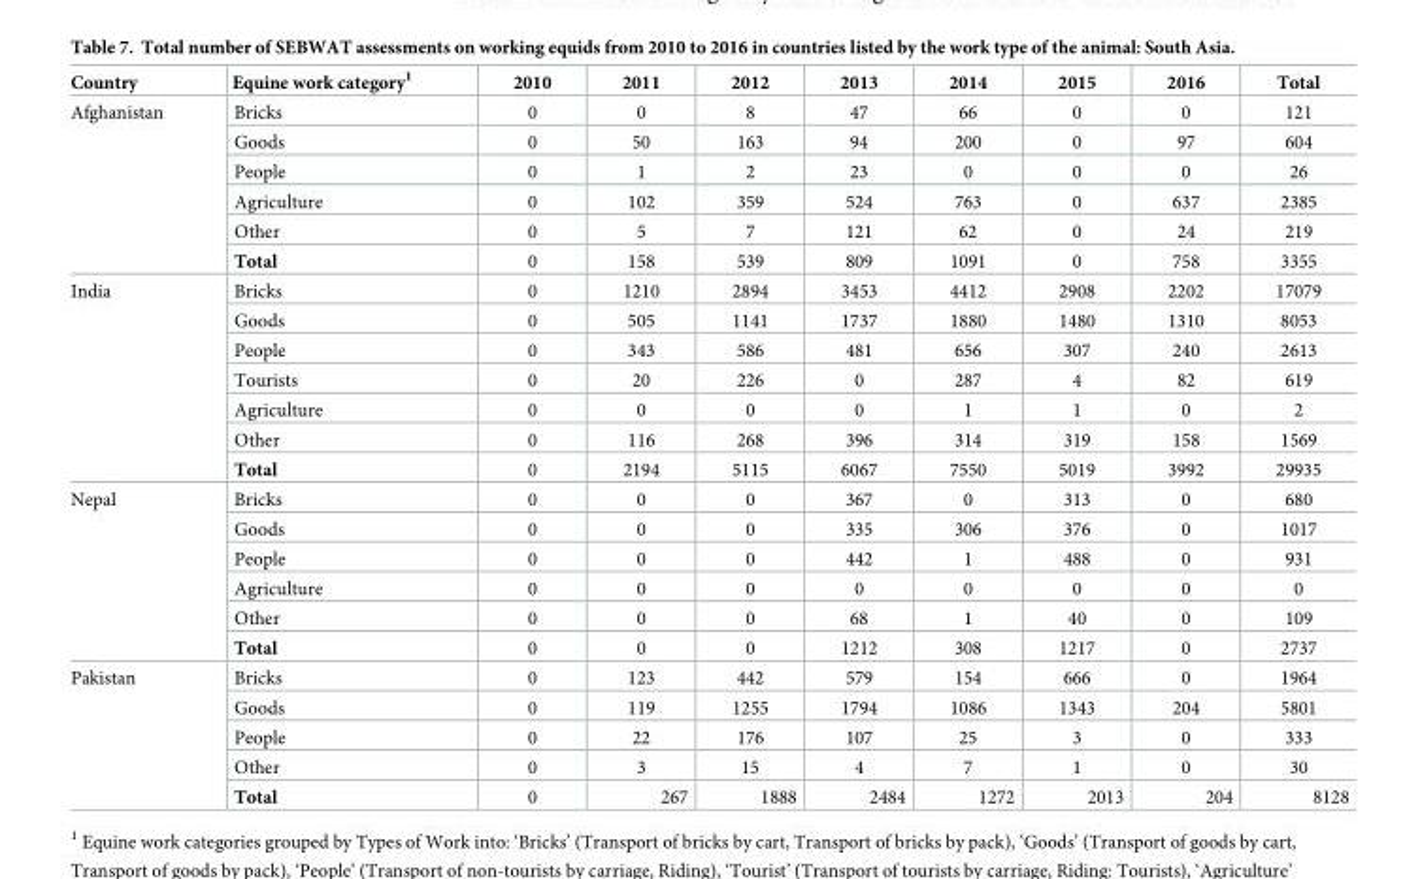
<table><thead><tr><td>Country</td><td>Equine work category<sup>1</sup></td><td>2010</td><td>2011</td><td>2012</td><td>2013</td><td>2014</td><td>2015</td><td>2016</td><td>Total</td></tr></thead><tbody><tr><td rowspan="6">Afghanistan</td><td>Bricks</td><td>0</td><td>0</td><td>8</td><td>47</td><td>66</td><td>0</td><td>0</td><td>121</td></tr><tr><td>Goods</td><td>0</td><td>50</td><td>163</td><td>94</td><td>200</td><td>0</td><td>97</td><td>604</td></tr><tr><td>People</td><td>0</td><td>1</td><td>2</td><td>23</td><td>0</td><td>0</td><td>0</td><td>26</td></tr><tr><td>Agriculture</td><td>0</td><td>102</td><td>359</td><td>524</td><td>763</td><td>0</td><td>637</td><td>2385</td></tr><tr><td>Other</td><td>0</td><td>5</td><td>7</td><td>121</td><td>62</td><td>0</td><td>24</td><td>219</td></tr><tr><td>Total</td><td>0</td><td>158</td><td>539</td><td>809</td><td>1091</td><td>0</td><td>758</td><td>3355</td></tr><tr><td rowspan="7">India</td><td>Bricks</td><td>0</td><td>1210</td><td>2894</td><td>3453</td><td>4412</td><td>2908</td><td>2202</td><td>17079</td></tr><tr><td>Goods</td><td>0</td><td>505</td><td>1141</td><td>1737</td><td>1880</td><td>1480</td><td>1310</td><td>8053</td></tr><tr><td>People</td><td>0</td><td>343</td><td>586</td><td>481</td><td>656</td><td>307</td><td>240</td><td>2613</td></tr><tr><td>Tourists</td><td>0</td><td>20</td><td>226</td><td>0</td><td>287</td><td>4</td><td>82</td><td>619</td></tr><tr><td>Agriculture</td><td>0</td><td>0</td><td>0</td><td>0</td><td>1</td><td>1</td><td>0</td><td>2</td></tr><tr><td>Other</td><td>0</td><td>116</td><td>268</td><td>396</td><td>314</td><td>319</td><td>158</td><td>1569</td></tr><tr><td>Total</td><td>0</td><td>2194</td><td>5115</td><td>6067</td><td>7550</td><td>5019</td><td>3992</td><td>29935</td></tr><tr><td rowspan="6">Nepal</td><td>Bricks</td><td>0</td><td>0</td><td>0</td><td>367</td><td>0</td><td>313</td><td>0</td><td>680</td></tr><tr><td>Goods</td><td>0</td><td>0</td><td>0</td><td>335</td><td>306</td><td>376</td><td>0</td><td>1017</td></tr><tr><td>People</td><td>0</td><td>0</td><td>0</td><td>442</td><td>1</td><td>488</td><td>0</td><td>931</td></tr><tr><td>Agriculture</td><td>0</td><td>0</td><td>0</td><td>0</td><td>0</td><td>0</td><td>0</td><td>0</td></tr><tr><td>Other</td><td>0</td><td>0</td><td>0</td><td>68</td><td>1</td><td>40</td><td>0</td><td>109</td></tr><tr><td>Total</td><td>0</td><td>0</td><td>0</td><td>1212</td><td>308</td><td>1217</td><td>0</td><td>2737</td></tr><tr><td rowspan="5">Pakistan</td><td>Bricks</td><td>0</td><td>123</td><td>442</td><td>579</td><td>154</td><td>666</td><td>0</td><td>1964</td></tr><tr><td>Goods</td><td>0</td><td>119</td><td>1255</td><td>1794</td><td>1086</td><td>1343</td><td>204</td><td>5801</td></tr><tr><td>People</td><td>0</td><td>22</td><td>176</td><td>107</td><td>25</td><td>3</td><td>0</td><td>333</td></tr><tr><td>Other</td><td>0</td><td>3</td><td>15</td><td>4</td><td>7</td><td>1</td><td>0</td><td>30</td></tr><tr><td>Total</td><td>0</td><td>267</td><td>1888</td><td>2484</td><td>1272</td><td>2013</td><td>204</td><td>8128</td></tr></tbody></table>